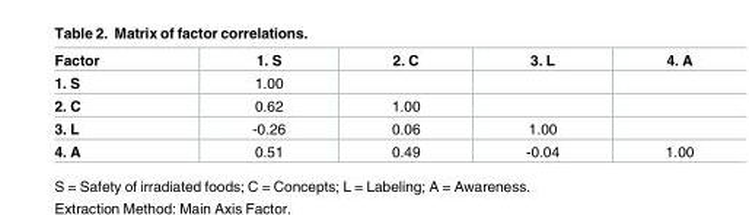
<table><tbody><tr><td>Factor</td><td>1. S</td><td>2. C</td><td>3. L</td><td>4. A</td></tr><tr><td>1. S</td><td>1.00</td><td></td><td></td><td></td></tr><tr><td>2. C</td><td>0.62</td><td>1.00</td><td></td><td></td></tr><tr><td>3. L</td><td>-0.26</td><td>0.06</td><td>1.00</td><td></td></tr><tr><td>4. A</td><td>0.51</td><td>0.49</td><td>-0.04</td><td>1.00</td></tr></tbody></table>